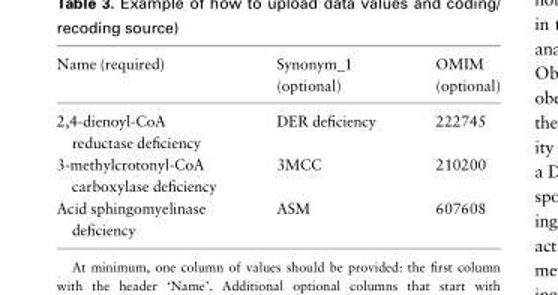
<table><thead><tr><td>Name (required)</td><td>Synonym_1 (optional)</td><td>OMIM (optional)</td></tr></thead><tbody><tr><td>2,4-dienoyl-CoA reductase deficiency</td><td>DER deficiency</td><td>222745</td></tr><tr><td>3-methylcrotonyl-CoA carboxylase deficiency</td><td>3MCC</td><td>210200</td></tr><tr><td>Acid sphingomyelinase deficiency</td><td>ASM</td><td>607608</td></tr></tbody></table>